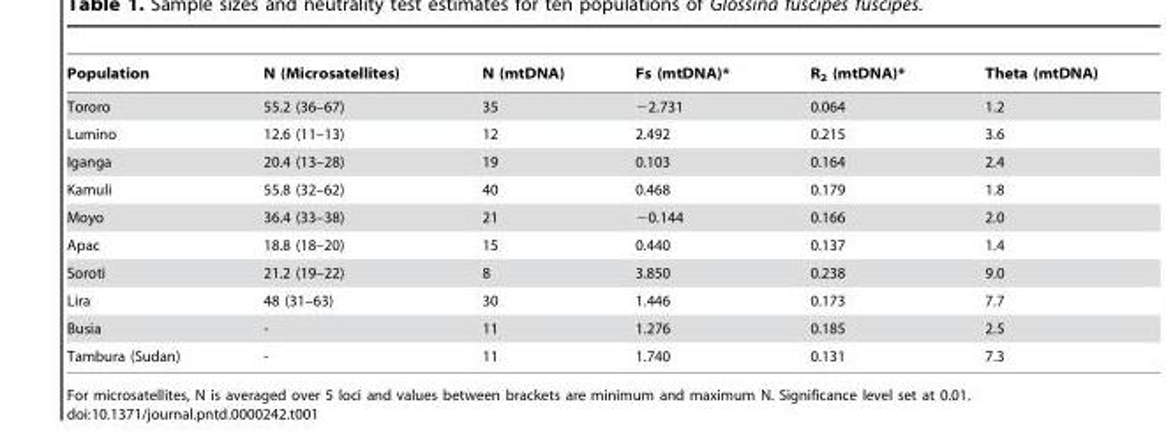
<table><thead><tr><td>Population</td><td>N (Microsatellites)</td><td>N (mtDNA)</td><td>Fs (mtDNA)*</td><td>R<sub>2</sub> (mtDNA)*</td><td>Theta (mtDNA)</td></tr></thead><tbody><tr><td>Tororo</td><td>55.2 (36–67)</td><td>35</td><td>−2.731</td><td>0.064</td><td>1.2</td></tr><tr><td>Lumino</td><td>12.6 (11–13)</td><td>12</td><td>2.492</td><td>0.215</td><td>3.6</td></tr><tr><td>Iganga</td><td>20.4 (13–28)</td><td>19</td><td>0.103</td><td>0.164</td><td>2.4</td></tr><tr><td>Kamuli</td><td>55.8 (32–62)</td><td>40</td><td>0.468</td><td>0.179</td><td>1.8</td></tr><tr><td>Moyo</td><td>36.4 (33–38)</td><td>21</td><td>−0.144</td><td>0.166</td><td>2.0</td></tr><tr><td>Apac</td><td>18.8 (18–20)</td><td>15</td><td>0.440</td><td>0.137</td><td>1.4</td></tr><tr><td>Soroti</td><td>21.2 (19–22)</td><td>8</td><td>3.850</td><td>0.238</td><td>9.0</td></tr><tr><td>Lira</td><td>48 (31–63)</td><td>30</td><td>1.446</td><td>0.173</td><td>7.7</td></tr><tr><td>Busia</td><td>-</td><td>11</td><td>1.276</td><td>0.185</td><td>2.5</td></tr><tr><td>Tambura (Sudan)</td><td>-</td><td>11</td><td>1.740</td><td>0.131</td><td>7.3</td></tr></tbody></table>